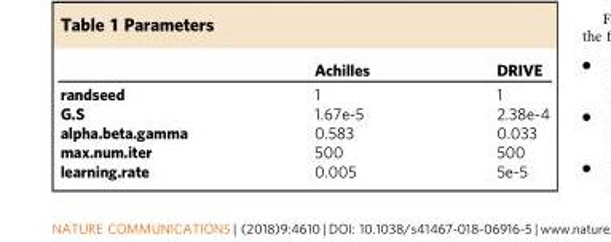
<table><thead><tr><td></td><td>Achilles</td><td>DRIVE</td></tr></thead><tbody><tr><td>randseed</td><td>1</td><td>1</td></tr><tr><td>G.S</td><td>1.67e-5</td><td>2.38e-4</td></tr><tr><td>alpha.beta.gamma</td><td>0.583</td><td>0.033</td></tr><tr><td>max.num.iter</td><td>500</td><td>500</td></tr><tr><td>learning.rate</td><td>0.005</td><td>5e-5</td></tr></tbody></table>